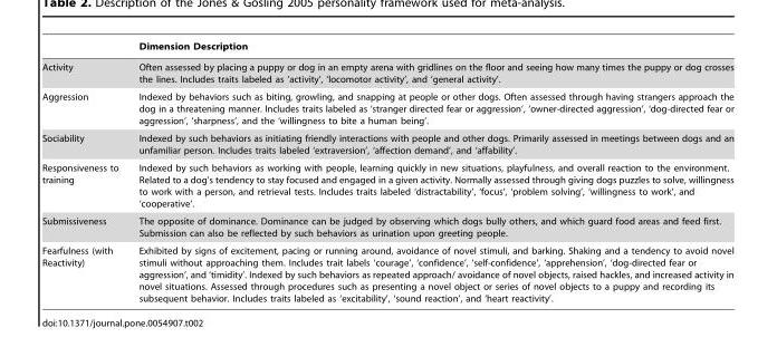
<table><thead><tr><td></td><td>Dimension Description</td></tr></thead><tbody><tr><td>Activity</td><td>Often assessed by placing a puppy or dog in an empty arena with gridlines on the floor and seeing how many times the puppy or dog crosses the lines. Includes traits labeled as ‘activity’, ‘locomotor activity’, and ‘general activity’.</td></tr><tr><td>Aggression</td><td>Indexed by behaviors such as biting, growling, and snapping at people or other dogs. Often assessed through having strangers approach the dog in a threatening manner. Includes traits labeled as ‘stranger directed fear or aggression’, ‘owner-directed aggression’, ‘dog-directed fear or aggression’, ‘sharpness’, and the ‘willingness to bite a human being’.</td></tr><tr><td>Sociability</td><td>Indexed by such behaviors as initiating friendly interactions with people and other dogs. Primarily assessed in meetings between dogs and an unfamiliar person. Includes traits labeled ‘extraversion’, ‘affection demand’, and ‘affability’.</td></tr><tr><td>Responsiveness to training</td><td>Indexed by such behaviors as working with people, learning quickly in new situations, playfulness, and overall reaction to the environment. Related to a dog’s tendency to stay focused and engaged in a given activity. Normally assessed through giving dogs puzzles to solve, willingness to work with a person, and retrieval tests. Includes traits labeled ‘distractability’, ‘focus’, ‘problem solving’, ‘willingness to work’, and ‘cooperative’.</td></tr><tr><td>Submissiveness</td><td>The opposite of dominance. Dominance can be judged by observing which dogs bully others, and which guard food areas and feed first. Submission can also be reflected by such behaviors as urination upon greeting people.</td></tr><tr><td>Fearfulness (with Reactivity)</td><td>Exhibited by signs of excitement, pacing or running around, avoidance of novel stimuli, and barking. Shaking and a tendency to avoid novel stimuli without approaching them. Includes trait labels ‘courage’, ‘confidence’, ‘self-confidence’, ‘apprehension’, ‘dog-directed fear or aggression’, and ‘timidity’. Indexed by such behaviors as repeated approach/ avoidance of novel objects, raised hackles, and increased activity in novel situations. Assessed through procedures such as presenting a novel object or series of novel objects to a puppy and recording its subsequent behavior. Includes traits labeled as ‘excitability’, ‘sound reaction’, and ‘heart reactivity’.</td></tr></tbody></table>